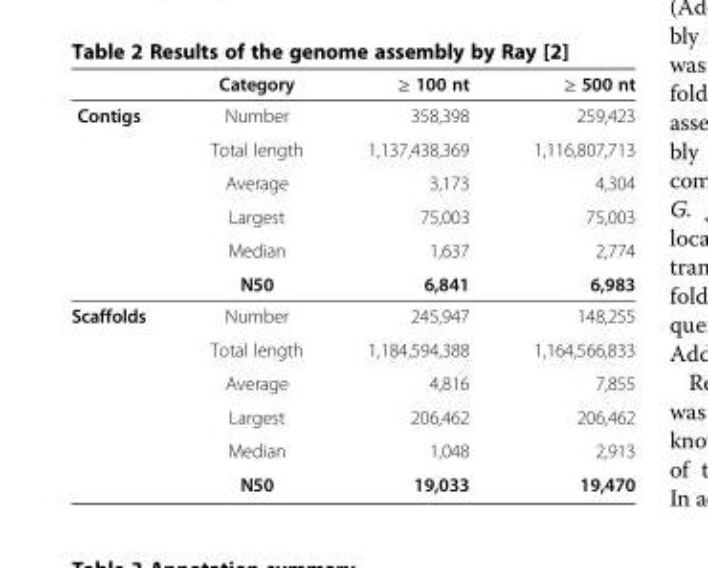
<table><thead><tr><td></td><td>Category</td><td>≥ 100 nt</td><td>≥ 500 nt</td></tr></thead><tbody><tr><td rowspan="6">Contigs</td><td>Number</td><td>358,398</td><td>259,423</td></tr><tr><td>Total length</td><td>1,137,438,369</td><td>1,116,807,713</td></tr><tr><td>Average</td><td>3,173</td><td>4,304</td></tr><tr><td>Largest</td><td>75,003</td><td>75,003</td></tr><tr><td>Median</td><td>1,637</td><td>2,774</td></tr><tr><td>N50</td><td>6,841</td><td>6,983</td></tr><tr><td rowspan="6">Scaffolds</td><td>Number</td><td>245,947</td><td>148,255</td></tr><tr><td>Total length</td><td>1,184,594,388</td><td>1,164,566,833</td></tr><tr><td>Average</td><td>4,816</td><td>7,855</td></tr><tr><td>Largest</td><td>206,462</td><td>206,462</td></tr><tr><td>Median</td><td>1,048</td><td>2,913</td></tr><tr><td>N50</td><td>19,033</td><td>19,470</td></tr></tbody></table>